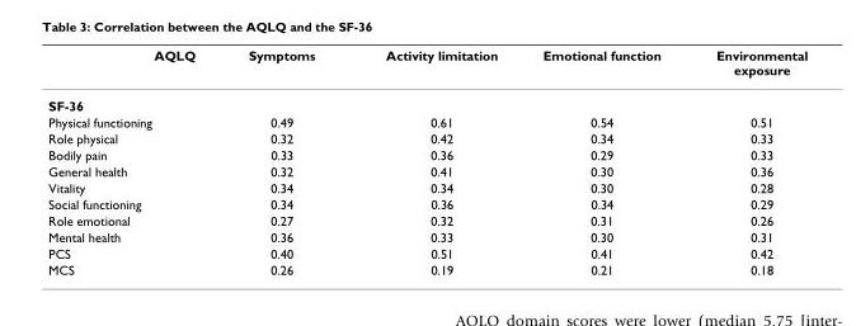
<table><thead><tr><td>AQLQ</td><td>Symptoms</td><td>Activity limitation</td><td>Emotional function</td><td>Environmental exposure</td></tr></thead><tbody><tr><td colspan="5">SF-36</td></tr><tr><td>Physical functioning</td><td>0.49</td><td>0.61</td><td>0.54</td><td>0.51</td></tr><tr><td>Role physical</td><td>0.32</td><td>0.42</td><td>0.34</td><td>0.33</td></tr><tr><td>Bodily pain</td><td>0.33</td><td>0.36</td><td>0.29</td><td>0.33</td></tr><tr><td>General health</td><td>0.32</td><td>0.41</td><td>0.30</td><td>0.36</td></tr><tr><td>Vitality</td><td>0.34</td><td>0.34</td><td>0.30</td><td>0.28</td></tr><tr><td>Social functioning</td><td>0.34</td><td>0.36</td><td>0.34</td><td>0.29</td></tr><tr><td>Role emotional</td><td>0.27</td><td>0.32</td><td>0.31</td><td>0.26</td></tr><tr><td>Mental health</td><td>0.36</td><td>0.33</td><td>0.30</td><td>0.31</td></tr><tr><td>PCS</td><td>0.40</td><td>0.51</td><td>0.41</td><td>0.42</td></tr><tr><td>MCS</td><td>0.26</td><td>0.19</td><td>0.21</td><td>0.18</td></tr></tbody></table>